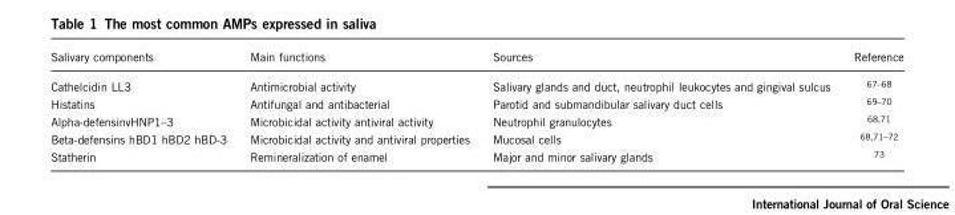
<table><thead><tr><td>Salivary components</td><td>Main functions</td><td>Sources</td><td>Reference</td></tr></thead><tbody><tr><td>Cathelcidin LL3</td><td>Antimicrobial activity</td><td>Salivary glands and duct, neutrophil leukocytes and gingival sulcus</td><td>67–68</td></tr><tr><td>Histatins</td><td>Antifungal and antibacterial</td><td>Parotid and submandibular salivary duct cells</td><td>69–70</td></tr><tr><td>Alpha-defensinvHNP1–3</td><td>Microbicidal activity antiviral activity</td><td>Neutrophil granulocytes</td><td><sup>68,71</sup></td></tr><tr><td>Beta-defensins hBD1 hBD2 hBD-3</td><td>Microbicidal activity and antiviral properties</td><td>Mucosal cells</td><td>68,71–72</td></tr><tr><td>Statherin</td><td>Remineralization of enamel</td><td>Major and minor salivary glands</td><td><sup>73</sup></td></tr></tbody></table>